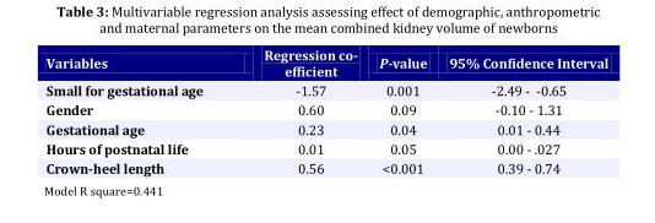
<table><thead><tr><td>Variables</td><td>Regression co- efficient</td><td>P-value</td><td>95% Confidence Interval</td></tr></thead><tbody><tr><td>Small for gestational age</td><td>-1.57</td><td>0.001</td><td>-2.49 - -0.65</td></tr><tr><td>Gender</td><td>0.60</td><td>0.09</td><td>-0.10 - 1.31</td></tr><tr><td>Gestational age</td><td>0.23</td><td>0.04</td><td>0.01 - 0.44</td></tr><tr><td>Hours of postnatal life</td><td>0.01</td><td>0.05</td><td>0.00 - .027</td></tr><tr><td>Crown-heel length</td><td>0.56</td><td>&lt;0.001</td><td>0.39 - 0.74</td></tr></tbody></table>